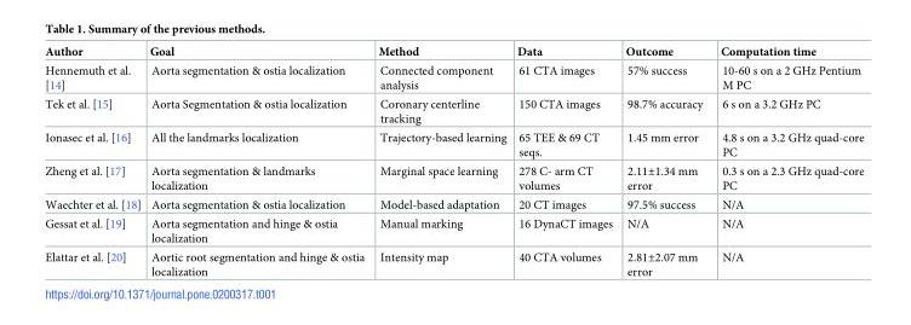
<table><thead><tr><td>Author</td><td>Goal</td><td>Method</td><td>Data</td><td>Outcome</td><td>Computation time</td></tr></thead><tbody><tr><td>Hennemuth et al. [14]</td><td>Aorta segmentation &amp; ostia localization</td><td>Connected component analysis</td><td>61 CTA images</td><td>57% success</td><td>10-60 s on a 2 GHz Pentium M PC</td></tr><tr><td>Tek et al. [15]</td><td>Aorta Segmentation &amp; ostia localization</td><td>Coronary centerline tracking</td><td>150 CTA images</td><td>98.7% accuracy</td><td>6 s on a 3.2 GHz PC</td></tr><tr><td>Ionasec et al. [16]</td><td>All the landmarks localization</td><td>Trajectory-based learning</td><td>65 TEE &amp; 69 CT seqs.</td><td>1.45 mm error</td><td>4.8 s on a 3.2 GHz quad-core PC</td></tr><tr><td>Zheng et al. [17]</td><td>Aorta segmentation &amp; landmarks localization</td><td>Marginal space learning</td><td>278 C- arm CT volumes</td><td>2.11±1.34 mm error</td><td>0.3 s on a 2.3 GHz quad-core PC</td></tr><tr><td>Waechter et al. [18]</td><td>Aorta segmentation &amp; ostia localization</td><td>Model-based adaptation</td><td>20 CT images</td><td>97.5% success</td><td>N/A</td></tr><tr><td>Gessat et al. [19]</td><td>Aorta segmentation and hinge &amp; ostia localization</td><td>Manual marking</td><td>16 DynaCT images</td><td>N/A</td><td>N/A</td></tr><tr><td>Elattar et al. [20]</td><td>Aortic root segmentation and hinge &amp; ostia localization</td><td>Intensity map</td><td>40 CTA volumes</td><td>2.81±2.07 mm error</td><td>N/A</td></tr></tbody></table>